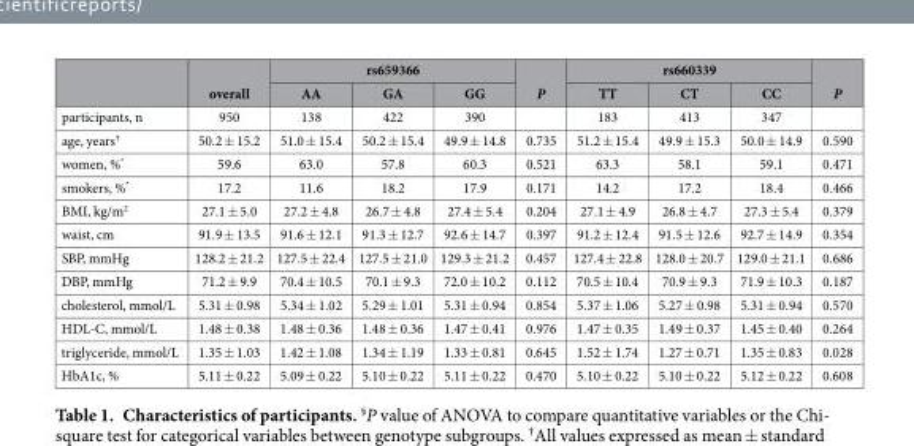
<table><thead><tr><td rowspan="2"></td><td rowspan="2">overall</td><td colspan="3">rs659366</td><td rowspan="2">P</td><td colspan="3">rs660339</td><td rowspan="2">P</td></tr><tr><td>AA</td><td>GA</td><td>GG</td><td>TT</td><td>CT</td><td>CC</td></tr></thead><tbody><tr><td>participants, n</td><td>950</td><td>138</td><td>422</td><td>390</td><td></td><td>183</td><td>413</td><td>347</td><td></td></tr><tr><td>age, years†</td><td>50.2 ± 15.2</td><td>51.0 ± 15.4</td><td>50.2 ± 15.4</td><td>49.9 ± 14.8</td><td>0.735</td><td>51.2 ± 15.4</td><td>49.9 ± 15.3</td><td>50.0 ± 14.9</td><td>0.590</td></tr><tr><td>women, %*</td><td>59.6</td><td>63.0</td><td>57.8</td><td>60.3</td><td>0.521</td><td>63.3</td><td>58.1</td><td>59.1</td><td>0.471</td></tr><tr><td>smokers, %*</td><td>17.2</td><td>11.6</td><td>18.2</td><td>17.9</td><td>0.171</td><td>14.2</td><td>17.2</td><td>18.4</td><td>0.466</td></tr><tr><td>BMI, kg/m<sup>2</sup></td><td>27.1 ± 5.0</td><td>27.2 ± 4.8</td><td>26.7 ± 4.8</td><td>27.4 ± 5.4</td><td>0.204</td><td>27.1 ± 4.9</td><td>26.8 ± 4.7</td><td>27.3 ± 5.4</td><td>0.379</td></tr><tr><td>waist, cm</td><td>91.9 ± 13.5</td><td>91.6 ± 12.1</td><td>91.3 ± 12.7</td><td>92.6 ± 14.7</td><td>0.397</td><td>91.2 ± 12.4</td><td>91.5 ± 12.6</td><td>92.7 ± 14.9</td><td>0.354</td></tr><tr><td>SBP, mmHg</td><td>128.2 ± 21.2</td><td>127.5 ± 22.4</td><td>127.5 ± 21.0</td><td>129.3 ± 21.2</td><td>0.457</td><td>127.4 ± 22.8</td><td>128.0 ± 20.7</td><td>129.0 ± 21.1</td><td>0.686</td></tr><tr><td>DBP, mmHg</td><td>71.2 ± 9.9</td><td>70.4 ± 10.5</td><td>70.1 ± 9.3</td><td>72.0 ± 10.2</td><td>0.112</td><td>70.5 ± 10.4</td><td>70.9 ± 9.3</td><td>71.9 ± 10.3</td><td>0.187</td></tr><tr><td>cholesterol, mmol/L</td><td>5.31 ± 0.98</td><td>5.34 ± 1.02</td><td>5.29 ± 1.01</td><td>5.31 ± 0.94</td><td>0.854</td><td>5.37 ± 1.06</td><td>5.27 ± 0.98</td><td>5.31 ± 0.94</td><td>0.570</td></tr><tr><td>HDL-C, mmol/L</td><td>1.48 ± 0.38</td><td>1.48 ± 0.36</td><td>1.48 ± 0.36</td><td>1.47 ± 0.41</td><td>0.976</td><td>1.47 ± 0.35</td><td>1.49 ± 0.37</td><td>1.45 ± 0.40</td><td>0.264</td></tr><tr><td>triglyceride, mmol/L</td><td>1.35 ± 1.03</td><td>1.42 ± 1.08</td><td>1.34 ± 1.19</td><td>1.33 ± 0.81</td><td>0.645</td><td>1.52 ± 1.74</td><td>1.27 ± 0.71</td><td>1.35 ± 0.83</td><td>0.028</td></tr><tr><td>HbA1c, %</td><td>5.11 ± 0.22</td><td>5.09 ± 0.22</td><td>5.10 ± 0.22</td><td>5.11 ± 0.22</td><td>0.470</td><td>5.10 ± 0.22</td><td>5.10 ± 0.22</td><td>5.12 ± 0.22</td><td>0.608</td></tr></tbody></table>